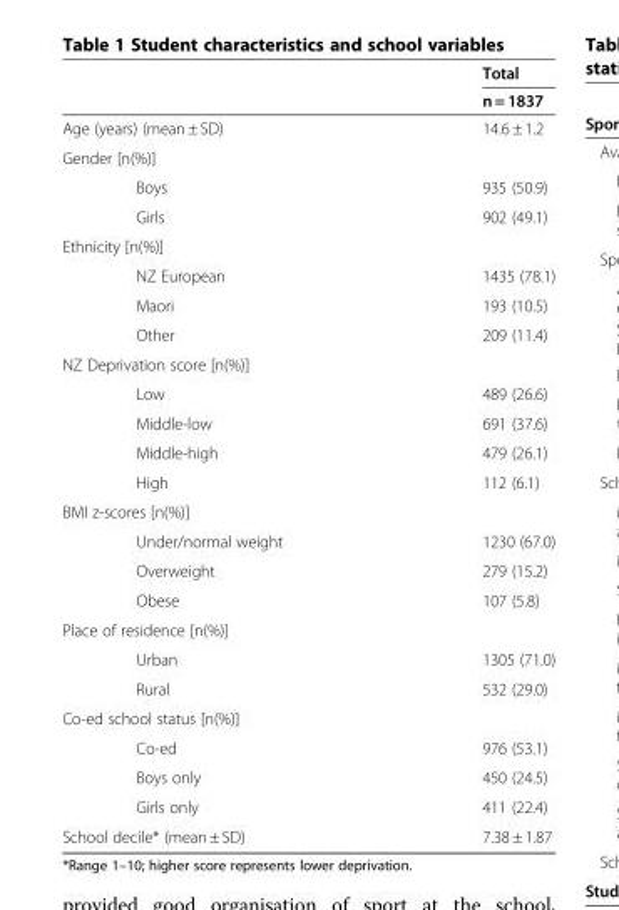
<table><thead><tr><td rowspan="2"></td><td rowspan="2">Total n = 1837</td></tr><tr></tr></thead><tbody><tr><td>Age (years) (mean ± SD)</td><td>14.6 ± 1.2</td></tr><tr><td colspan="2">Gender [n(%)]</td></tr><tr><td>Boys</td><td>935 (50.9)</td></tr><tr><td>Girls</td><td>902 (49.1)</td></tr><tr><td colspan="2">Ethnicity [n(%)]</td></tr><tr><td>NZ European</td><td>1435 (78.1)</td></tr><tr><td>Maori</td><td>193 (10.5)</td></tr><tr><td>Other</td><td>209 (11.4)</td></tr><tr><td colspan="2">NZ Deprivation score [n(%)]</td></tr><tr><td>Low</td><td>489 (26.6)</td></tr><tr><td>Middle-low</td><td>691 (37.6)</td></tr><tr><td>Middle-high</td><td>479 (26.1)</td></tr><tr><td>High</td><td>112 (6.1)</td></tr><tr><td colspan="2">BMI z-scores [n(%)]</td></tr><tr><td>Under/normal weight</td><td>1230 (67.0)</td></tr><tr><td>Overweight</td><td>279 (15.2)</td></tr><tr><td>Obese</td><td>107 (5.8)</td></tr><tr><td colspan="2">Place of residence [n(%)]</td></tr><tr><td>Urban</td><td>1305 (71.0)</td></tr><tr><td>Rural</td><td>532 (29.0)</td></tr><tr><td colspan="2">Co-ed school status [n(%)]</td></tr><tr><td>Co-ed</td><td>976 (53.1)</td></tr><tr><td>Boys only</td><td>450 (24.5)</td></tr><tr><td>Girls only</td><td>411 (22.4)</td></tr><tr><td>School decile* (mean ± SD)</td><td>7.38 ± 1.87</td></tr></tbody></table>